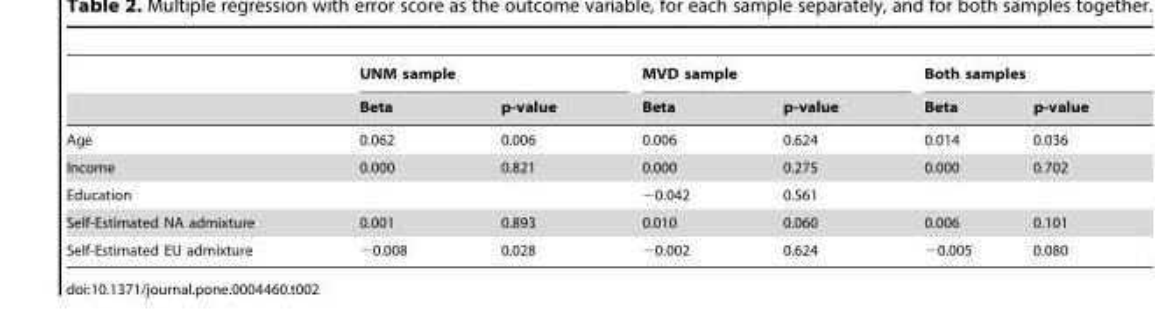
<table><thead><tr><td rowspan="2"></td><td colspan="2">UNM sample</td><td colspan="2">MVD sample</td><td colspan="2">Both samples</td></tr><tr><td>Beta</td><td>p-value</td><td>Beta</td><td>p-value</td><td>Beta</td><td>p-value</td></tr></thead><tbody><tr><td>Age</td><td>0.062</td><td>0.006</td><td>0.006</td><td>0.624</td><td>0.014</td><td>0.036</td></tr><tr><td>Income</td><td>0.000</td><td>0.821</td><td>0.000</td><td>0.275</td><td>0.000</td><td>0.702</td></tr><tr><td>Education</td><td></td><td></td><td>−0.042</td><td>0.561</td><td></td><td></td></tr><tr><td>Self-Estimated NA admixture</td><td>0.001</td><td>0.893</td><td>0.010</td><td>0.060</td><td>0.006</td><td>0.101</td></tr><tr><td>Self-Estimated EU admixture</td><td>−0.008</td><td>0.028</td><td>−0.002</td><td>0.624</td><td>−0.005</td><td>0.080</td></tr></tbody></table>